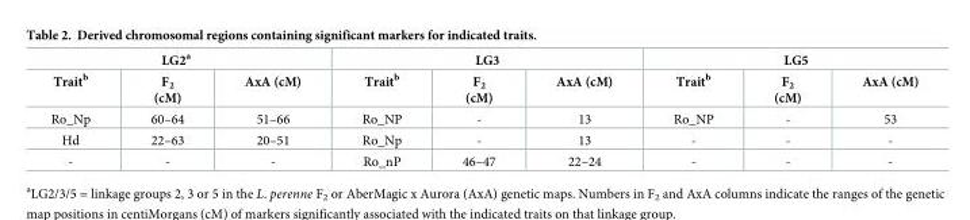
<table><thead><tr><td colspan="3">LG2<sup>a</sup></td><td colspan="3">LG3</td><td colspan="3">LG5</td></tr><tr><td>Trait<sup>b</sup></td><td>F<sub>2</sub> (cM)</td><td>AxA (cM)</td><td>Trait<sup>b</sup></td><td>F<sub>2</sub> (cM)</td><td>AxA (cM)</td><td>Trait<sup>b</sup></td><td>F<sub>2</sub> (cM)</td><td>AxA (cM)</td></tr></thead><tbody><tr><td>Ro_Np</td><td>60–64</td><td>51–66</td><td>Ro_NP</td><td>-</td><td>13</td><td>Ro_NP</td><td>-</td><td>53</td></tr><tr><td>Hd</td><td>22–63</td><td>20–51</td><td>Ro_Np</td><td>-</td><td>13</td><td>-</td><td>-</td><td>-</td></tr><tr><td>-</td><td>-</td><td>-</td><td>Ro_nP</td><td>46–47</td><td>22–24</td><td>-</td><td>-</td><td>-</td></tr></tbody></table>